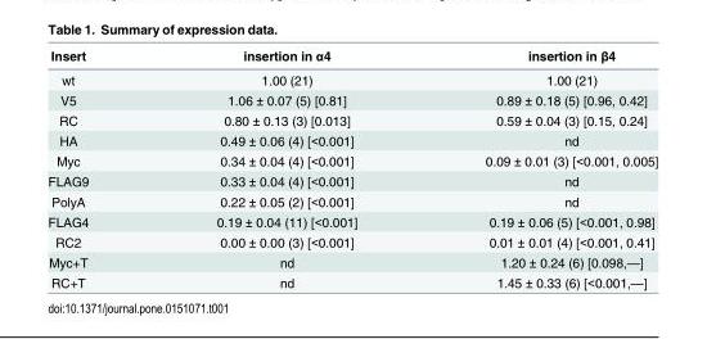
<table><thead><tr><td>Insert</td><td>insertion in α4</td><td>insertion in β4</td></tr></thead><tbody><tr><td>wt</td><td>1.00 (21)</td><td>1.00 (21)</td></tr><tr><td>V5</td><td>1.06 ± 0.07 (5) [0.81]</td><td>0.89 ± 0.18 (5) [0.96, 0.42]</td></tr><tr><td>RC</td><td>0.80 ± 0.13 (3) [0.013]</td><td>0.59 ± 0.04 (3) [0.15, 0.24]</td></tr><tr><td>HA</td><td>0.49 ± 0.06 (4) [&lt;0.001]</td><td>nd</td></tr><tr><td>Myc</td><td>0.34 ± 0.04 (4) [&lt;0.001]</td><td>0.09 ± 0.01 (3) [&lt;0.001, 0.005]</td></tr><tr><td>FLAG9</td><td>0.33 ± 0.04 (4) [&lt;0.001]</td><td>nd</td></tr><tr><td>PolyA</td><td>0.22 ± 0.05 (2) [&lt;0.001]</td><td>nd</td></tr><tr><td>FLAG4</td><td>0.19 ± 0.04 (11) [&lt;0.001]</td><td>0.19 ± 0.06 (5) [&lt;0.001, 0.98]</td></tr><tr><td>RC2</td><td>0.00 ± 0.00 (3) [&lt;0.001]</td><td>0.01 ± 0.01 (4) [&lt;0.001, 0.41]</td></tr><tr><td>Myc+T</td><td>nd</td><td>1.20 ± 0.24 (6) [0.098,—]</td></tr><tr><td>RC+T</td><td>nd</td><td>1.45 ± 0.33 (6) [&lt;0.001,—]</td></tr></tbody></table>